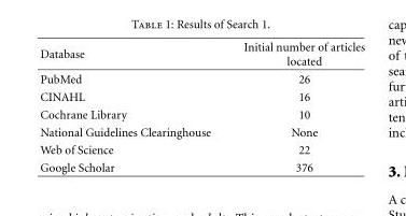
<table><thead><tr><td>Database</td><td>Initial number of articles located</td></tr></thead><tbody><tr><td>PubMed</td><td>26</td></tr><tr><td>CINAHL</td><td>16</td></tr><tr><td>Cochrane Library</td><td>10</td></tr><tr><td>National Guidelines Clearinghouse</td><td>None</td></tr><tr><td>Web of Science</td><td>22</td></tr><tr><td>Google Scholar</td><td>376</td></tr></tbody></table>